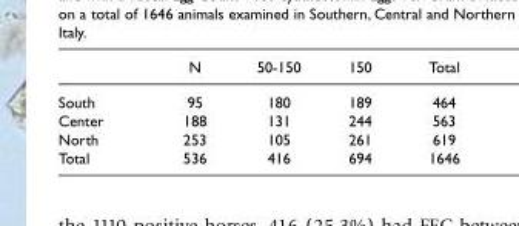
<table><thead><tr><td></td><td>N</td><td>50-150</td><td>150</td><td>Total</td></tr></thead><tbody><tr><td>South</td><td>95</td><td>180</td><td>189</td><td>464</td></tr><tr><td>Center</td><td>188</td><td>131</td><td>244</td><td>563</td></tr><tr><td>North</td><td>253</td><td>105</td><td>261</td><td>619</td></tr><tr><td>Total</td><td>536</td><td>416</td><td>694</td><td>1646</td></tr></tbody></table>